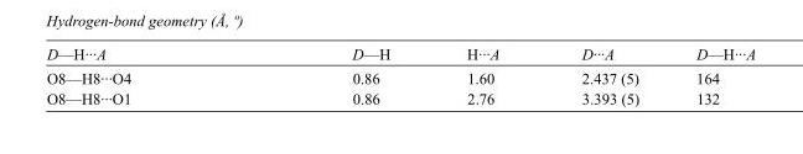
<table><tbody><tr><td>D—H···A</td><td>D—H</td><td>H···A</td><td>D···A</td><td>D—H···A</td></tr><tr><td>O8—H8···O4</td><td>0.86</td><td>1.60</td><td>2.437 (5)</td><td>164</td></tr><tr><td>O8—H8···O1</td><td>0.86</td><td>2.76</td><td>3.393 (5)</td><td>132</td></tr></tbody></table>